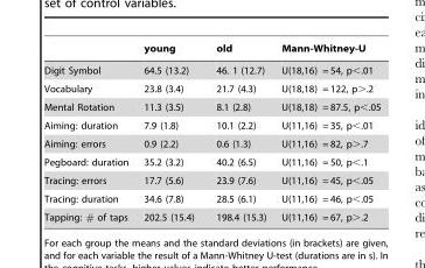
<table><thead><tr><td></td><td>young</td><td>old</td><td>Mann-Whitney-U</td></tr></thead><tbody><tr><td>Digit Symbol</td><td>64.5 (13.2)</td><td>46. 1 (12.7)</td><td>U(18,16) = 54, p&lt;.01</td></tr><tr><td>Vocabulary</td><td>23.8 (3.4)</td><td>21.7 (4.3)</td><td>U(18,18) = 122, p&gt;.2</td></tr><tr><td>Mental Rotation</td><td>11.3 (3.5)</td><td>8.1 (2.8)</td><td>U(18,18) = 87.5, p&lt;.05</td></tr><tr><td>Aiming: duration</td><td>7.9 (1.8)</td><td>10.1 (2.2)</td><td>U(11,16) = 35, p&lt;.01</td></tr><tr><td>Aiming: errors</td><td>0.9 (2.2)</td><td>0.6 (1.3)</td><td>U(11,16) = 82, p&gt;.7</td></tr><tr><td>Pegboard: duration</td><td>35.2 (3.2)</td><td>40.2 (6.5)</td><td>U(11,16) = 50, p&lt;.1</td></tr><tr><td>Tracing: errors</td><td>17.7 (5.6)</td><td>23.9 (7.6)</td><td>U(11,16) = 45, p&lt;.05</td></tr><tr><td>Tracing: duration</td><td>34.6 (7.8)</td><td>28.5 (6.1)</td><td>U(11,16) = 46, p&lt;.05</td></tr><tr><td>Tapping: # of taps</td><td>202.5 (15.4)</td><td>198.4 (15.3)</td><td>U(11,16) = 67, p&gt;.2</td></tr></tbody></table>